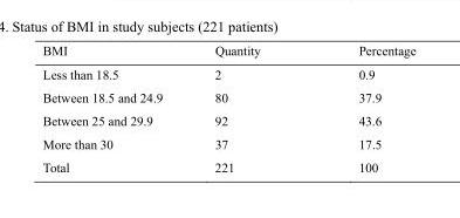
<table><thead><tr><td>BMI</td><td>Quantity</td><td>Percentage</td></tr></thead><tbody><tr><td>Less than 18.5</td><td>2</td><td>0.9</td></tr><tr><td>Between 18.5 and 24.9</td><td>80</td><td>37.9</td></tr><tr><td>Between 25 and 29.9</td><td>92</td><td>43.6</td></tr><tr><td>More than 30</td><td>37</td><td>17.5</td></tr><tr><td>Total</td><td>221</td><td>100</td></tr></tbody></table>